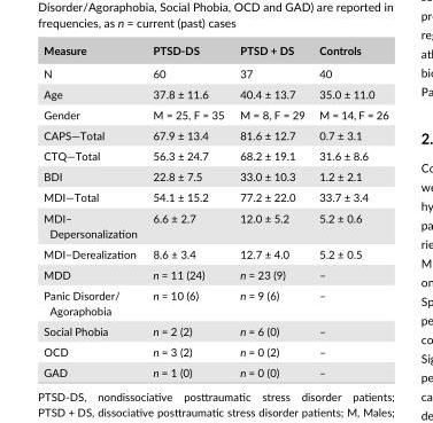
<table><thead><tr><td>Measure</td><td>PTSD- DS</td><td>PTSD + DS</td><td>Controls</td></tr></thead><tbody><tr><td>N</td><td>60</td><td>37</td><td>40</td></tr><tr><td>Age</td><td>37.8 ± 11.6</td><td>40.4 ± 13.7</td><td>35.0 ± 11.0</td></tr><tr><td>Gender</td><td>M = 25, F = 35</td><td>M = 8, F = 29</td><td>M = 14, F = 26</td></tr><tr><td>CAPS—Total</td><td>67.9 ± 13.4</td><td>81.6 ± 12.7</td><td>0.7 ± 3.1</td></tr><tr><td>CTQ—Total</td><td>56.3 ± 24.7</td><td>68.2 ± 19.1</td><td>31.6 ± 8.6</td></tr><tr><td>BDI</td><td>22.8 ± 7.5</td><td>33.0 ± 10.3</td><td>1.2 ± 2.1</td></tr><tr><td>MDI—Total</td><td>54.1 ± 15.2</td><td>77.2 ± 22.0</td><td>33.7 ± 3.4</td></tr><tr><td>MDI– Depersonalization</td><td>6.6 ± 2.7</td><td>12.0 ± 5.2</td><td>5.2 ± 0.6</td></tr><tr><td>MDI–Derealization</td><td>8.6 ± 3.4</td><td>12.7 ± 4.0</td><td>5.2 ± 0.5</td></tr><tr><td>MDD</td><td>n = 11 (24)</td><td>n = 23 (9)</td><td>–</td></tr><tr><td>Panic Disorder/ Agoraphobia</td><td>n = 10 (6)</td><td>n = 9 (6)</td><td>–</td></tr><tr><td>Social Phobia</td><td>n = 2 (2)</td><td>n = 6 (0)</td><td>–</td></tr><tr><td>OCD</td><td>n = 3 (2)</td><td>n = 0 (2)</td><td>–</td></tr><tr><td>GAD</td><td>n = 1 (0)</td><td>n = 0 (0)</td><td>–</td></tr></tbody></table>